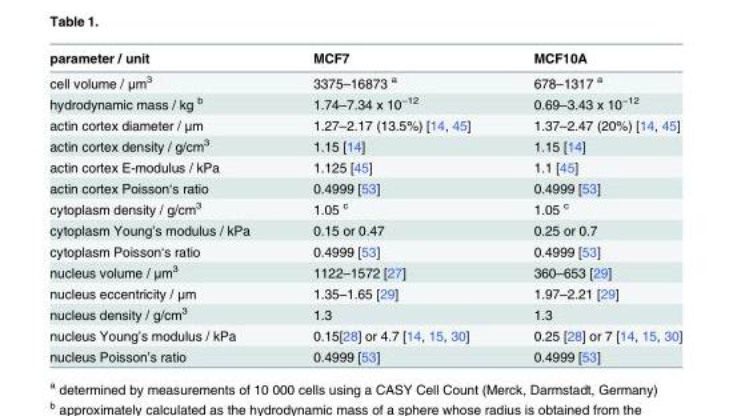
<table><thead><tr><td>parameter / unit</td><td>MCF7</td><td>MCF10A</td></tr></thead><tbody><tr><td>cell volume / μm<sup>3</sup></td><td>3375–16873 <sup>a</sup></td><td>678–1317 <sup>a</sup></td></tr><tr><td>hydrodynamic mass / kg <sup>b</sup></td><td>1.74–7.34 x 10<sup>−12</sup></td><td>0.69–3.43 x 10<sup>−12</sup></td></tr><tr><td>actin cortex diameter / μm</td><td>1.27–2.17 (13.5%) [14, 45]</td><td>1.37–2.47 (20%) [14, 45]</td></tr><tr><td>actin cortex density / g/cm<sup>3</sup></td><td>1.15 [14]</td><td>1.15 [14]</td></tr><tr><td>actin cortex E-modulus / kPa</td><td>1.125 [45]</td><td>1.1 [45]</td></tr><tr><td>actin cortex Poisson‘s ratio</td><td>0.4999 [53]</td><td>0.4999 [53]</td></tr><tr><td>cytoplasm density / g/cm<sup>3</sup></td><td>1.05 <sup>c</sup></td><td>1.05 <sup>c</sup></td></tr><tr><td>cytoplasm Young’s modulus / kPa</td><td>0.15 or 0.47</td><td>0.25 or 0.7</td></tr><tr><td>cytoplasm Poisson‘s ratio</td><td>0.4999 [53]</td><td>0.4999 [53]</td></tr><tr><td>nucleus volume / μm<sup>3</sup></td><td>1122–1572 [27]</td><td>360–653 [29]</td></tr><tr><td>nucleus eccentricity / μm</td><td>1.35–1.65 [29]</td><td>1.97–2.21 [29]</td></tr><tr><td>nucleus density / g/cm<sup>3</sup></td><td>1.3</td><td>1.3</td></tr><tr><td>nucleus Young’s modulus / kPa</td><td>0.15[28] or 4.7 [14, 15, 30]</td><td>0.25 [28] or 7 [14, 15, 30]</td></tr><tr><td>nucleus Poisson’s ratio</td><td>0.4999 [53]</td><td>0.4999 [53]</td></tr></tbody></table>